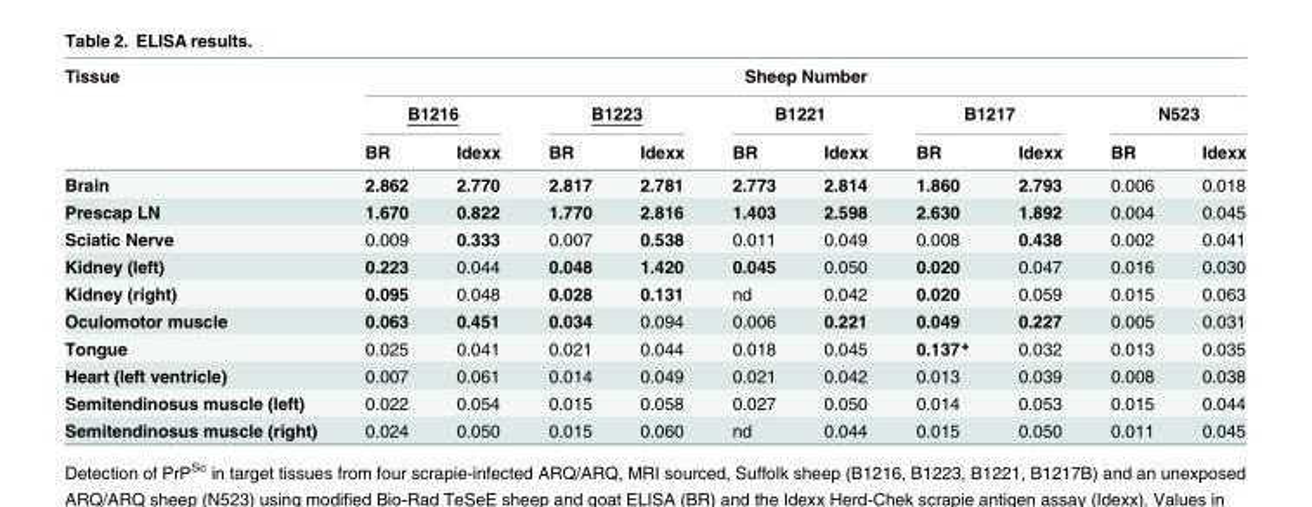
<table><thead><tr><td rowspan="3">Tissue</td><td colspan="10">Sheep Number</td></tr><tr><td colspan="2">B1216</td><td colspan="2">B1223</td><td colspan="2">B1221</td><td colspan="2">B1217</td><td colspan="2">N523</td></tr><tr><td>BR</td><td>Idexx</td><td>BR</td><td>Idexx</td><td>BR</td><td>Idexx</td><td>BR</td><td>Idexx</td><td>BR</td><td>Idexx</td></tr></thead><tbody><tr><td>Brain</td><td>2.862</td><td>2.770</td><td>2.817</td><td>2.781</td><td>2.773</td><td>2.814</td><td>1.860</td><td>2.793</td><td>0.006</td><td>0.018</td></tr><tr><td>Prescap LN</td><td>1.670</td><td>0.822</td><td>1.770</td><td>2.816</td><td>1.403</td><td>2.598</td><td>2.630</td><td>1.892</td><td>0.004</td><td>0.045</td></tr><tr><td>Sciatic Nerve</td><td>0.009</td><td>0.333</td><td>0.007</td><td>0.538</td><td>0.011</td><td>0.049</td><td>0.008</td><td>0.438</td><td>0.002</td><td>0.041</td></tr><tr><td>Kidney (left)</td><td>0.223</td><td>0.044</td><td>0.048</td><td>1.420</td><td>0.045</td><td>0.050</td><td>0.020</td><td>0.047</td><td>0.016</td><td>0.030</td></tr><tr><td>Kidney (right)</td><td>0.095</td><td>0.048</td><td>0.028</td><td>0.131</td><td>nd</td><td>0.042</td><td>0.020</td><td>0.059</td><td>0.015</td><td>0.063</td></tr><tr><td>Oculomotor muscle</td><td>0.063</td><td>0.451</td><td>0.034</td><td>0.094</td><td>0.006</td><td>0.221</td><td>0.049</td><td>0.227</td><td>0.005</td><td>0.031</td></tr><tr><td>Tongue</td><td>0.025</td><td>0.041</td><td>0.021</td><td>0.044</td><td>0.018</td><td>0.045</td><td>0.137*</td><td>0.032</td><td>0.013</td><td>0.035</td></tr><tr><td>Heart (left ventricle)</td><td>0.007</td><td>0.061</td><td>0.014</td><td>0.049</td><td>0.021</td><td>0.042</td><td>0.013</td><td>0.039</td><td>0.008</td><td>0.038</td></tr><tr><td>Semitendinosus muscle (left)</td><td>0.022</td><td>0.054</td><td>0.015</td><td>0.058</td><td>0.027</td><td>0.050</td><td>0.014</td><td>0.053</td><td>0.015</td><td>0.044</td></tr><tr><td>Semitendinosus muscle (right)</td><td>0.024</td><td>0.050</td><td>0.015</td><td>0.060</td><td>nd</td><td>0.044</td><td>0.015</td><td>0.050</td><td>0.011</td><td>0.045</td></tr></tbody></table>